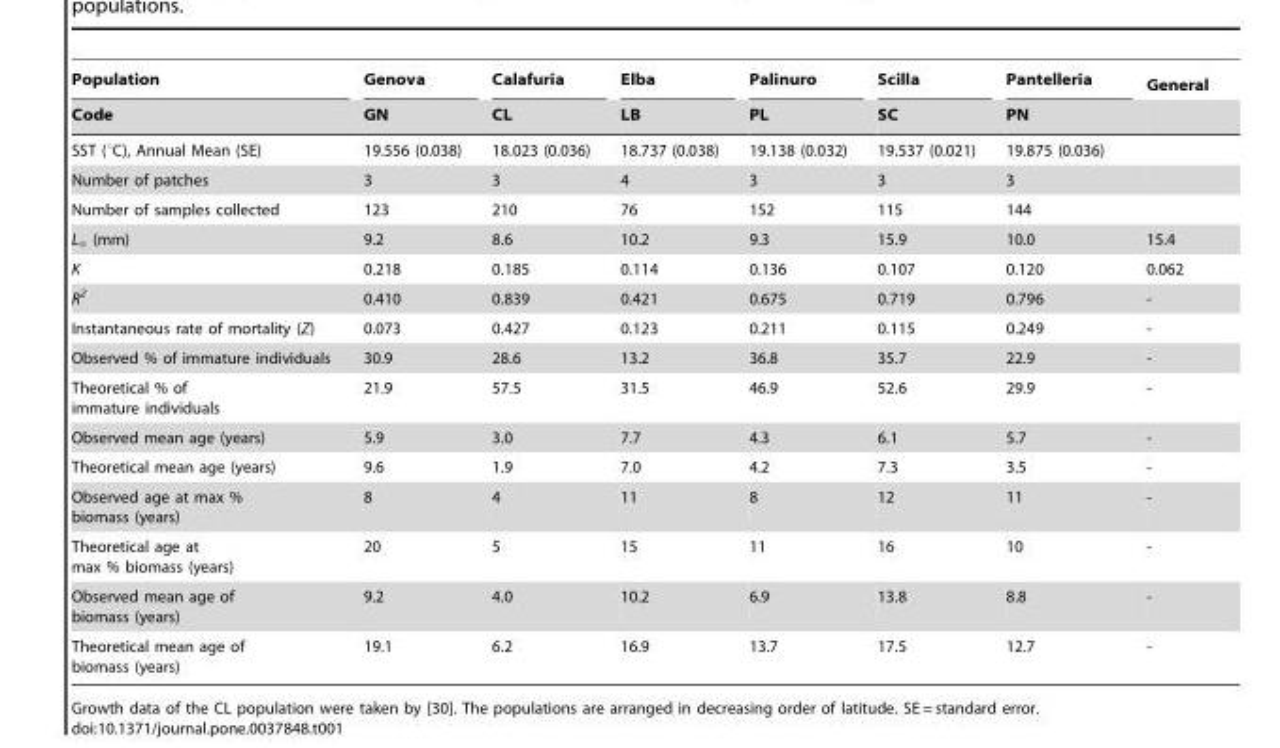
<table><thead><tr><td rowspan="2">Population Code</td><td rowspan="2">Genova GN</td><td rowspan="2">Calafuria CL</td><td rowspan="2">Elba LB</td><td rowspan="2">Palinuro PL</td><td rowspan="2">Scilla SC</td><td rowspan="2">Pantelleria PN</td><td rowspan="2">General</td></tr><tr></tr></thead><tbody><tr><td>SST (°C), Annual Mean (SE)</td><td>19.556 (0.038)</td><td>18.023 (0.036)</td><td>18.737 (0.038)</td><td>19.138 (0.032)</td><td>19.537 (0.021)</td><td>19.875 (0.036)</td><td></td></tr><tr><td>Number of patches</td><td>3</td><td>3</td><td>4</td><td>3</td><td>3</td><td>3</td><td></td></tr><tr><td>Number of samples collected</td><td>123</td><td>210</td><td>76</td><td>152</td><td>115</td><td>144</td><td></td></tr><tr><td>L‘ (mm)</td><td>9.2</td><td>8.6</td><td>10.2</td><td>9.3</td><td>15.9</td><td>10.0</td><td>15.4</td></tr><tr><td>K</td><td>0.218</td><td>0.185</td><td>0.114</td><td>0.136</td><td>0.107</td><td>0.120</td><td>0.062</td></tr><tr><td>R<sup>2</sup></td><td>0.410</td><td>0.839</td><td>0.421</td><td>0.675</td><td>0.719</td><td>0.796</td><td>-</td></tr><tr><td>Instantaneous rate of mortality (Z)</td><td>0.073</td><td>0.427</td><td>0.123</td><td>0.211</td><td>0.115</td><td>0.249</td><td>-</td></tr><tr><td>Observed % of immature individuals</td><td>30.9</td><td>28.6</td><td>13.2</td><td>36.8</td><td>35.7</td><td>22.9</td><td>-</td></tr><tr><td>Theoretical % of immature individuals</td><td>21.9</td><td>57.5</td><td>31.5</td><td>46.9</td><td>52.6</td><td>29.9</td><td>-</td></tr><tr><td>Observed mean age (years)</td><td>5.9</td><td>3.0</td><td>7.7</td><td>4.3</td><td>6.1</td><td>5.7</td><td>-</td></tr><tr><td>Theoretical mean age (years)</td><td>9.6</td><td>1.9</td><td>7.0</td><td>4.2</td><td>7.3</td><td>3.5</td><td>-</td></tr><tr><td>Observed age at max % biomass (years)</td><td>8</td><td>4</td><td>11</td><td>8</td><td>12</td><td>11</td><td>-</td></tr><tr><td>Theoretical age at max % biomass (years)</td><td>20</td><td>5</td><td>15</td><td>11</td><td>16</td><td>10</td><td>-</td></tr><tr><td>Observed mean age of biomass (years)</td><td>9.2</td><td>4.0</td><td>10.2</td><td>6.9</td><td>13.8</td><td>8.8</td><td>-</td></tr><tr><td>Theoretical mean age of biomass (years)</td><td>19.1</td><td>6.2</td><td>16.9</td><td>13.7</td><td>17.5</td><td>12.7</td><td>-</td></tr></tbody></table>